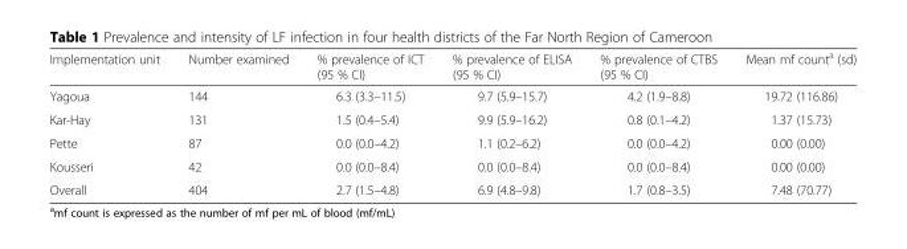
<table><thead><tr><td>Implementation unit</td><td>Number examined</td><td>% prevalence of ICT (95 % CI)</td><td>% prevalence of ELISA (95 % CI)</td><td>% prevalence of CTBS (95 % CI)</td><td>Mean mf count<sup>a</sup> (sd)</td></tr></thead><tbody><tr><td>Yagoua</td><td>144</td><td>6.3 (3.3–11.5)</td><td>9.7 (5.9–15.7)</td><td>4.2 (1.9–8.8)</td><td>19.72 (116.86)</td></tr><tr><td>Kar-Hay</td><td>131</td><td>1.5 (0.4–5.4)</td><td>9.9 (5.9–16.2)</td><td>0.8 (0.1–4.2)</td><td>1.37 (15.73)</td></tr><tr><td>Pette</td><td>87</td><td>0.0 (0.0–4.2)</td><td>1.1 (0.2–6.2)</td><td>0.0 (0.0–4.2)</td><td>0.00 (0.00)</td></tr><tr><td>Kousseri</td><td>42</td><td>0.0 (0.0–8.4)</td><td>0.0 (0.0–8.4)</td><td>0.0 (0.0–8.4)</td><td>0.00 (0.00)</td></tr><tr><td>Overall</td><td>404</td><td>2.7 (1.5–4.8)</td><td>6.9 (4.8–9.8)</td><td>1.7 (0.8–3.5)</td><td>7.48 (70.77)</td></tr></tbody></table>